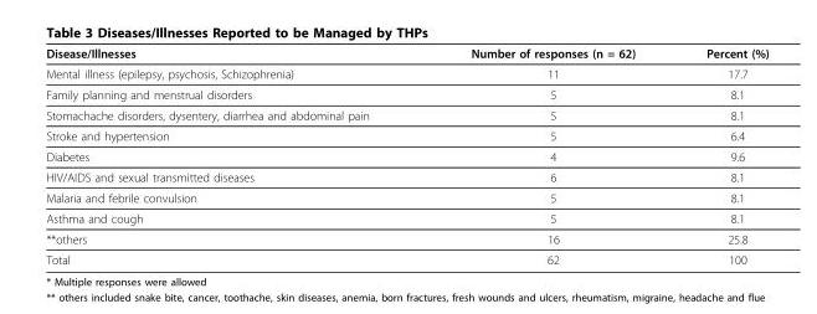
<table><thead><tr><td>Disease/Illnesses</td><td>Number of responses (n = 62)</td><td>Percent (%)</td></tr></thead><tbody><tr><td>Mental illness (epilepsy, psychosis, Schizophrenia)</td><td>11</td><td>17.7</td></tr><tr><td>Family planning and menstrual disorders</td><td>5</td><td>8.1</td></tr><tr><td>Stomachache disorders, dysentery, diarrhea and abdominal pain</td><td>5</td><td>8.1</td></tr><tr><td>Stroke and hypertension</td><td>5</td><td>6.4</td></tr><tr><td>Diabetes</td><td>4</td><td>9.6</td></tr><tr><td>HIV/AIDS and sexual transmitted diseases</td><td>6</td><td>8.1</td></tr><tr><td>Malaria and febrile convulsion</td><td>5</td><td>8.1</td></tr><tr><td>Asthma and cough</td><td>5</td><td>8.1</td></tr><tr><td>**others</td><td>16</td><td>25.8</td></tr><tr><td>Total</td><td>62</td><td>100</td></tr></tbody></table>